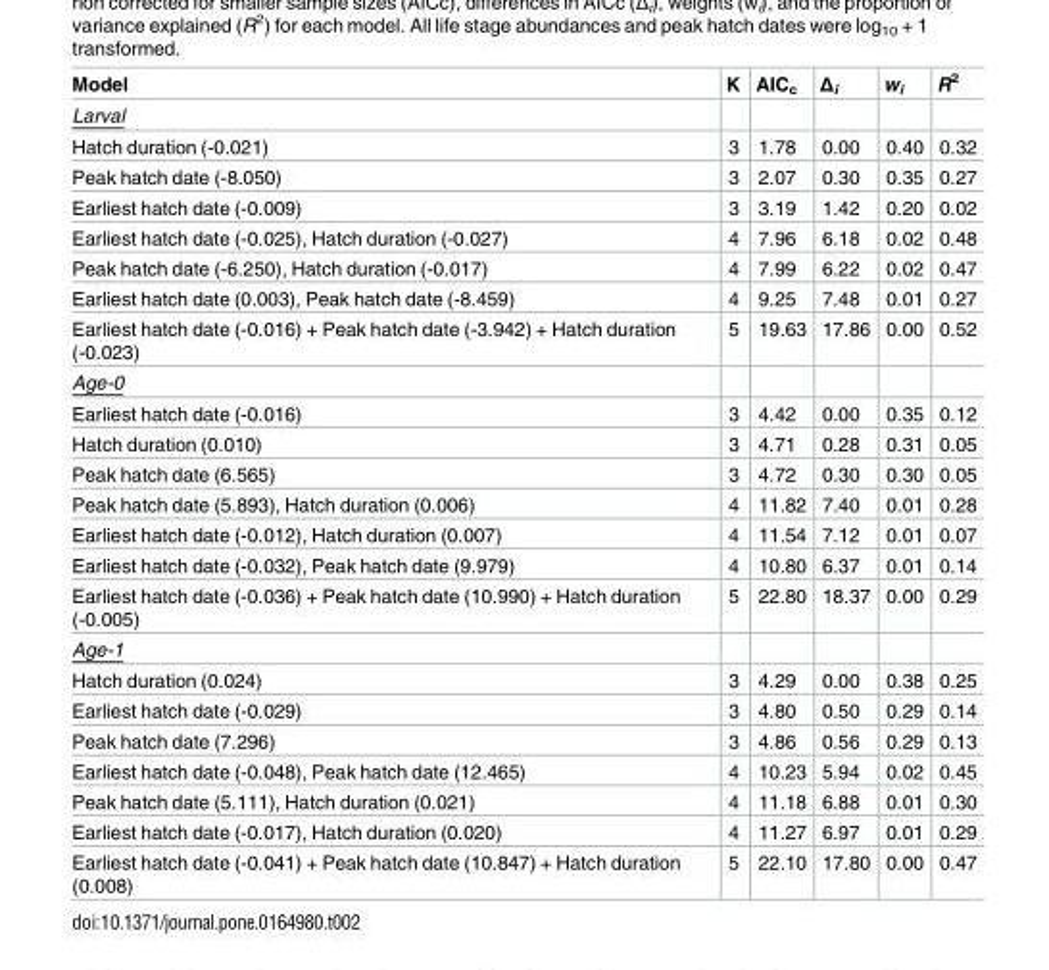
<table><thead><tr><td>Model</td><td>K</td><td>AIC<sub>c</sub></td><td>Δ<sub>i</sub></td><td>w<sub>i</sub></td><td>R<sup>2</sup></td></tr></thead><tbody><tr><td colspan="6">Larval</td></tr><tr><td>Hatch duration (-0.021)</td><td>3</td><td>1.78</td><td>0.00</td><td>0.40</td><td>0.32</td></tr><tr><td>Peak hatch date (-8.050)</td><td>3</td><td>2.07</td><td>0.30</td><td>0.35</td><td>0.27</td></tr><tr><td>Earliest hatch date (-0.009)</td><td>3</td><td>3.19</td><td>1.42</td><td>0.20</td><td>0.02</td></tr><tr><td>Earliest hatch date (-0.025), Hatch duration (-0.027)</td><td>4</td><td>7.96</td><td>6.18</td><td>0.02</td><td>0.48</td></tr><tr><td>Peak hatch date (-6.250), Hatch duration (-0.017)</td><td>4</td><td>7.99</td><td>6.22</td><td>0.02</td><td>0.47</td></tr><tr><td>Earliest hatch date (0.003), Peak hatch date (-8.459)</td><td>4</td><td>9.25</td><td>7.48</td><td>0.01</td><td>0.27</td></tr><tr><td>Earliest hatch date (-0.016) + Peak hatch date (-3.942) + Hatch duration (-0.023)</td><td>5</td><td>19.63</td><td>17.86</td><td>0.00</td><td>0.52</td></tr><tr><td colspan="6">Age-0</td></tr><tr><td>Earliest hatch date (-0.016)</td><td>3</td><td>4.42</td><td>0.00</td><td>0.35</td><td>0.12</td></tr><tr><td>Hatch duration (0.010)</td><td>3</td><td>4.71</td><td>0.28</td><td>0.31</td><td>0.05</td></tr><tr><td>Peak hatch date (6.565)</td><td>3</td><td>4.72</td><td>0.30</td><td>0.30</td><td>0.05</td></tr><tr><td>Peak hatch date (5.893), Hatch duration (0.006)</td><td>4</td><td>11.82</td><td>7.40</td><td>0.01</td><td>0.28</td></tr><tr><td>Earliest hatch date (-0.012), Hatch duration (0.007)</td><td>4</td><td>11.54</td><td>7.12</td><td>0.01</td><td>0.07</td></tr><tr><td>Earliest hatch date (-0.032), Peak hatch date (9.979)</td><td>4</td><td>10.80</td><td>6.37</td><td>0.01</td><td>0.14</td></tr><tr><td>Earliest hatch date (-0.036) + Peak hatch date (10.990) + Hatch duration (-0.005)</td><td>5</td><td>22.80</td><td>18.37</td><td>0.00</td><td>0.29</td></tr><tr><td colspan="6">Age-1</td></tr><tr><td>Hatch duration (0.024)</td><td>3</td><td>4.29</td><td>0.00</td><td>0.38</td><td>0.25</td></tr><tr><td>Earliest hatch date (-0.029)</td><td>3</td><td>4.80</td><td>0.50</td><td>0.29</td><td>0.14</td></tr><tr><td>Peak hatch date (7.296)</td><td>3</td><td>4.86</td><td>0.56</td><td>0.29</td><td>0.13</td></tr><tr><td>Earliest hatch date (-0.048), Peak hatch date (12.465)</td><td>4</td><td>10.23</td><td>5.94</td><td>0.02</td><td>0.45</td></tr><tr><td>Peak hatch date (5.111), Hatch duration (0.021)</td><td>4</td><td>11.18</td><td>6.88</td><td>0.01</td><td>0.30</td></tr><tr><td>Earliest hatch date (-0.017), Hatch duration (0.020)</td><td>4</td><td>11.27</td><td>6.97</td><td>0.01</td><td>0.29</td></tr><tr><td>Earliest hatch date (-0.041) + Peak hatch date (10.847) + Hatch duration (0.008)</td><td>5</td><td>22.10</td><td>17.80</td><td>0.00</td><td>0.47</td></tr></tbody></table>